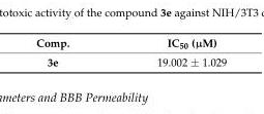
<table><thead><tr><td>Comp.</td><td>IC50 (µM)</td></tr></thead><tbody><tr><td>3e</td><td>19.002 ± 1.029</td></tr></tbody></table>